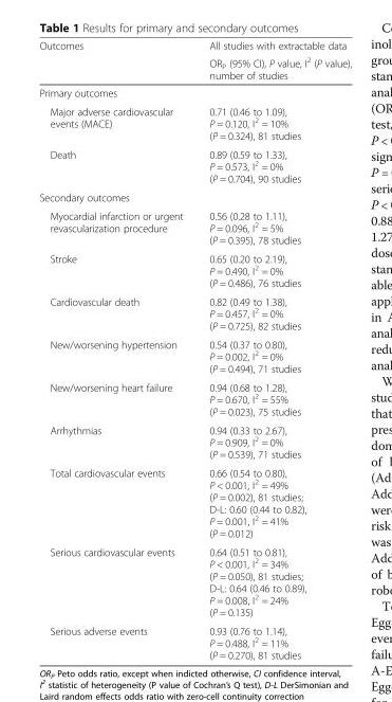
<table><thead><tr><td rowspan="2">Outcomes</td><td rowspan="2">All studies with extractable data OR<sub>P</sub> (95% CI), P value, I<sup>2</sup> (P value), number of studies</td></tr><tr></tr></thead><tbody><tr><td colspan="2">Primary outcomes</td></tr><tr><td>Major adverse cardiovascular events (MACE)</td><td>0.71 (0.46 to 1.09), P = 0.120, I<sup>2</sup> = 10% (P = 0.324), 81 studies</td></tr><tr><td>Death</td><td>0.89 (0.59 to 1.33), P = 0.573, I<sup>2</sup> = 0% (P = 0.704), 90 studies</td></tr><tr><td colspan="2">Secondary outcomes</td></tr><tr><td>Myocardial infarction or urgent revascularization procedure</td><td>0.56 (0.28 to 1.11), P = 0.096, I<sup>2</sup> = 5% (P = 0.395), 78 studies</td></tr><tr><td>Stroke</td><td>0.65 (0.20 to 2.19), P = 0.490, I<sup>2</sup> = 0% (P = 0.486), 76 studies</td></tr><tr><td>Cardiovascular death</td><td>0.82 (0.49 to 1.38), P = 0.457, I<sup>2</sup> = 0% (P = 0.725), 82 studies</td></tr><tr><td>New/worsening hypertension</td><td>0.54 (0.37 to 0.80), P = 0.002, I<sup>2</sup> = 0% (P = 0.494), 71 studies</td></tr><tr><td>New/worsening heart failure</td><td>0.94 (0.68 to 1.28), P = 0.670, I<sup>2</sup> = 55% (P = 0.023), 75 studies</td></tr><tr><td>Arrhythmias</td><td>0.94 (0.33 to 2.67), P = 0.909, I<sup>2</sup> = 0% (P = 0.539), 71 studies</td></tr><tr><td>Total cardiovascular events</td><td>0.66 (0.54 to 0.80), P &lt; 0.001, I<sup>2</sup> = 49% (P = 0.002), 81 studies; D-L: 0.60 (0.44 to 0.82), P = 0.001, I<sup>2</sup> = 41% (P = 0.012)</td></tr><tr><td>Serious cardiovascular events</td><td>0.64 (0.51 to 0.81), P &lt; 0.001, I<sup>2</sup> = 34% (P = 0.050), 81 studies; D-L: 0.64 (0.46 to 0.89), P = 0.008, I<sup>2</sup> = 24% (P = 0.135)</td></tr><tr><td>Serious adverse events</td><td>0.93 (0.76 to 1.14), P = 0.488, I<sup>2</sup> = 11% (P = 0.270), 81 studies</td></tr></tbody></table>